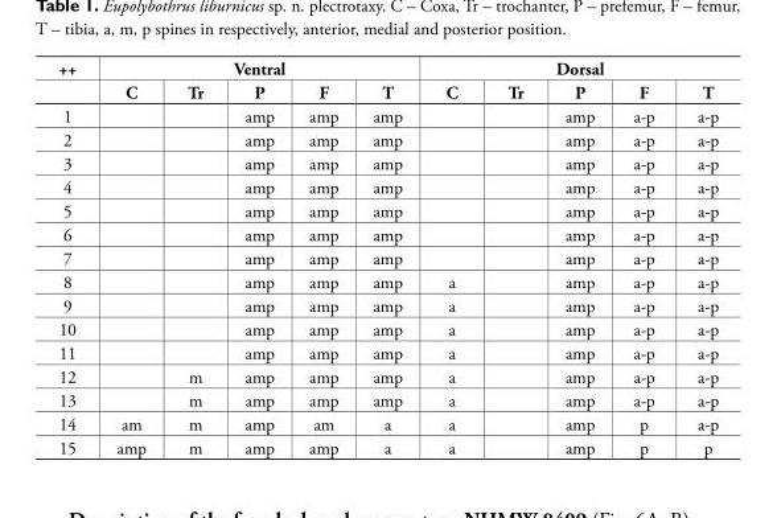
<table><thead><tr><td rowspan="2">++</td><td colspan="5">Ventral</td><td colspan="5">Dorsal</td></tr><tr><td>C</td><td>Tr</td><td>P</td><td>F</td><td>T</td><td>C</td><td>Tr</td><td>P</td><td>F</td><td>T</td></tr></thead><tbody><tr><td>1</td><td></td><td></td><td>amp</td><td>amp</td><td>amp</td><td></td><td></td><td>amp</td><td>a-p</td><td>a-p</td></tr><tr><td>2</td><td></td><td></td><td>amp</td><td>amp</td><td>amp</td><td></td><td></td><td>amp</td><td>a-p</td><td>a-p</td></tr><tr><td>3</td><td></td><td></td><td>amp</td><td>amp</td><td>amp</td><td></td><td></td><td>amp</td><td>a-p</td><td>a-p</td></tr><tr><td>4</td><td></td><td></td><td>amp</td><td>amp</td><td>amp</td><td></td><td></td><td>amp</td><td>a-p</td><td>a-p</td></tr><tr><td>5</td><td></td><td></td><td>amp</td><td>amp</td><td>amp</td><td></td><td></td><td>amp</td><td>a-p</td><td>a-p</td></tr><tr><td>6</td><td></td><td></td><td>amp</td><td>amp</td><td>amp</td><td></td><td></td><td>amp</td><td>a-p</td><td>a-p</td></tr><tr><td>7</td><td></td><td></td><td>amp</td><td>amp</td><td>amp</td><td></td><td></td><td>amp</td><td>a-p</td><td>a-p</td></tr><tr><td>8</td><td></td><td></td><td>amp</td><td>amp</td><td>amp</td><td>a</td><td></td><td>amp</td><td>a-p</td><td>a-p</td></tr><tr><td>9</td><td></td><td></td><td>amp</td><td>amp</td><td>amp</td><td>a</td><td></td><td>amp</td><td>a-p</td><td>a-p</td></tr><tr><td>10</td><td></td><td></td><td>amp</td><td>amp</td><td>amp</td><td>a</td><td></td><td>amp</td><td>a-p</td><td>a-p</td></tr><tr><td>11</td><td></td><td></td><td>amp</td><td>amp</td><td>amp</td><td>a</td><td></td><td>amp</td><td>a-p</td><td>a-p</td></tr><tr><td>12</td><td></td><td>m</td><td>amp</td><td>amp</td><td>amp</td><td>a</td><td></td><td>amp</td><td>a-p</td><td>a-p</td></tr><tr><td>13</td><td></td><td>m</td><td>amp</td><td>amp</td><td>amp</td><td>a</td><td></td><td>amp</td><td>a-p</td><td>a-p</td></tr><tr><td>14</td><td>am</td><td>m</td><td>amp</td><td>am</td><td>a</td><td>a</td><td></td><td>amp</td><td>p</td><td>a-p</td></tr><tr><td>15</td><td>amp</td><td>m</td><td>amp</td><td>amp</td><td>a</td><td>a</td><td></td><td>amp</td><td>p</td><td>p</td></tr></tbody></table>